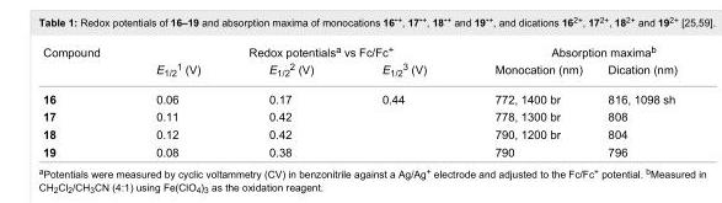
<table><tbody><tr><td rowspan="2">Compound</td><td colspan="3">Redox potentials<sup>a</sup> vs Fc/Fc<sup>+</sup></td><td colspan="2">Absorption maxima<sup>b</sup></td></tr><tr><td>E<sub>1/2</sub><sup>1</sup> (V)</td><td>E<sub>1/2</sub><sup>2</sup> (V)</td><td>E<sub>1/2</sub><sup>3</sup> (V)</td><td>Monocation (nm)</td><td>Dication (nm)</td></tr><tr><td>16</td><td>0.06</td><td>0.17</td><td>0.44</td><td>772, 1400 br</td><td>816, 1098 sh</td></tr><tr><td>17</td><td>0.11</td><td>0.42</td><td></td><td>778, 1300 br</td><td>808</td></tr><tr><td>18</td><td>0.12</td><td>0.42</td><td></td><td>790, 1200 br</td><td>804</td></tr><tr><td>19</td><td>0.08</td><td>0.38</td><td></td><td>790</td><td>796</td></tr></tbody></table>